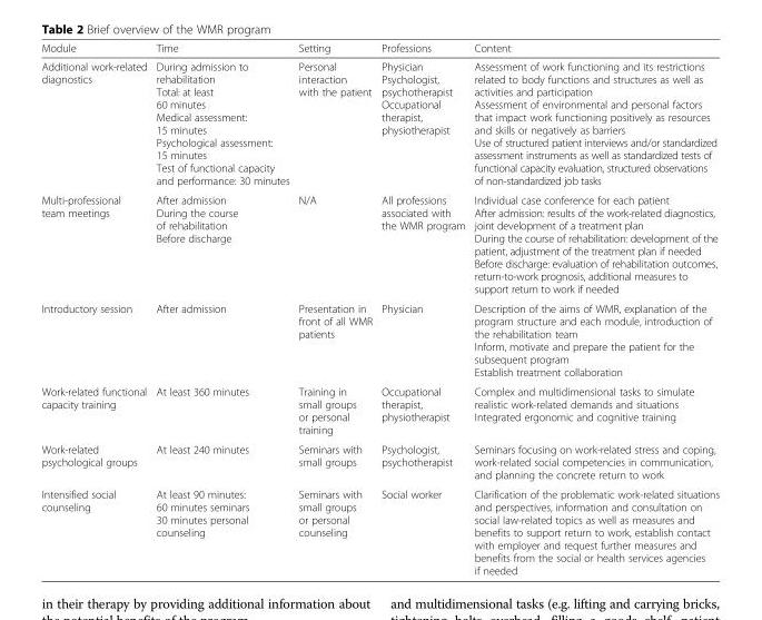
<table><thead><tr><td>Module</td><td>Time</td><td>Setting</td><td>Professions</td><td>Content</td></tr></thead><tbody><tr><td>Additional work-related diagnostics</td><td>During admission to rehabilitation Total: at least 60 minutes Medical assessment: 15 minutes Psychological assessment: 15 minutes Test of functional capacity and performance: 30 minutes</td><td>Personal interaction with the patient</td><td>Physician Psychologist, psychotherapist Occupational therapist, physiotherapist</td><td>Assessment of work functioning and its restrictions related to body functions and structures as well as activities and participation Assessment of environmental and personal factors that impact work functioning positively as resources and skills or negatively as barriers Use of structured patient interviews and/or standardized assessment instruments as well as standardized tests of functional capacity evaluation, structured observations of non-standardized job tasks</td></tr><tr><td>Multi-professional team meetings</td><td>After admission During the course of rehabilitation Before discharge</td><td>N/A</td><td>All professions associated with the WMR program</td><td>Individual case conference for each patient After admission: results of the work-related diagnostics, joint development of a treatment plan During the course of rehabilitation: development of the patient, adjustment of the treatment plan if needed Before discharge: evaluation of rehabilitation outcomes, return-to-work prognosis, additional measures to support return to work if needed</td></tr><tr><td>Introductory session</td><td>After admission</td><td>Presentation in front of all WMR patients</td><td>Physician</td><td>Description of the aims of WMR, explanation of the program structure and each module, introduction of the rehabilitation team Inform, motivate and prepare the patient for the subsequent program Establish treatment collaboration</td></tr><tr><td>Work-related functional capacity training</td><td>At least 360 minutes</td><td>Training in small groups or personal training</td><td>Occupational therapist, physiotherapist</td><td>Complex and multidimensional tasks to simulate realistic work-related demands and situations Integrated ergonomic and cognitive training</td></tr><tr><td>Work-related psychological groups</td><td>At least 240 minutes</td><td>Seminars with small groups</td><td>Psychologist, psychotherapist</td><td>Seminars focusing on work-related stress and coping, work-related social competencies in communication, and planning the concrete return to work</td></tr><tr><td>Intensified social counseling</td><td>At least 90 minutes: 60 minutes seminars 30 minutes personal counseling</td><td>Seminars with small groups or personal counseling</td><td>Social worker</td><td>Clarification of the problematic work-related situations and perspectives, information and consultation on social law-related topics as well as measures and benefits to support return to work, establish contact with employer and request further measures and benefits from the social or health services agencies if needed</td></tr></tbody></table>